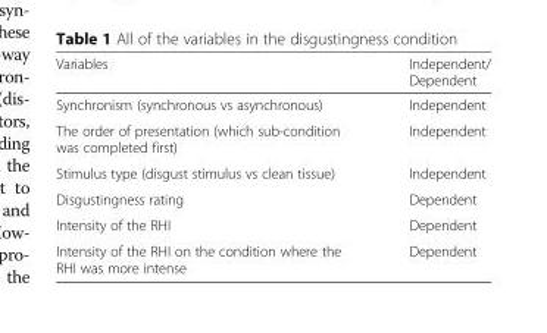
<table><thead><tr><td>Variables</td><td>Independent/ Dependent</td></tr></thead><tbody><tr><td>Synchronism (synchronous vs asynchronous)</td><td>Independent</td></tr><tr><td>The order of presentation (which sub-condition was completed first)</td><td>Independent</td></tr><tr><td>Stimulus type (disgust stimulus vs clean tissue)</td><td>Independent</td></tr><tr><td>Disgustingness rating</td><td>Dependent</td></tr><tr><td>Intensity of the RHI</td><td>Dependent</td></tr><tr><td>Intensity of the RHI on the condition where the RHI was more intense</td><td>Dependent</td></tr></tbody></table>